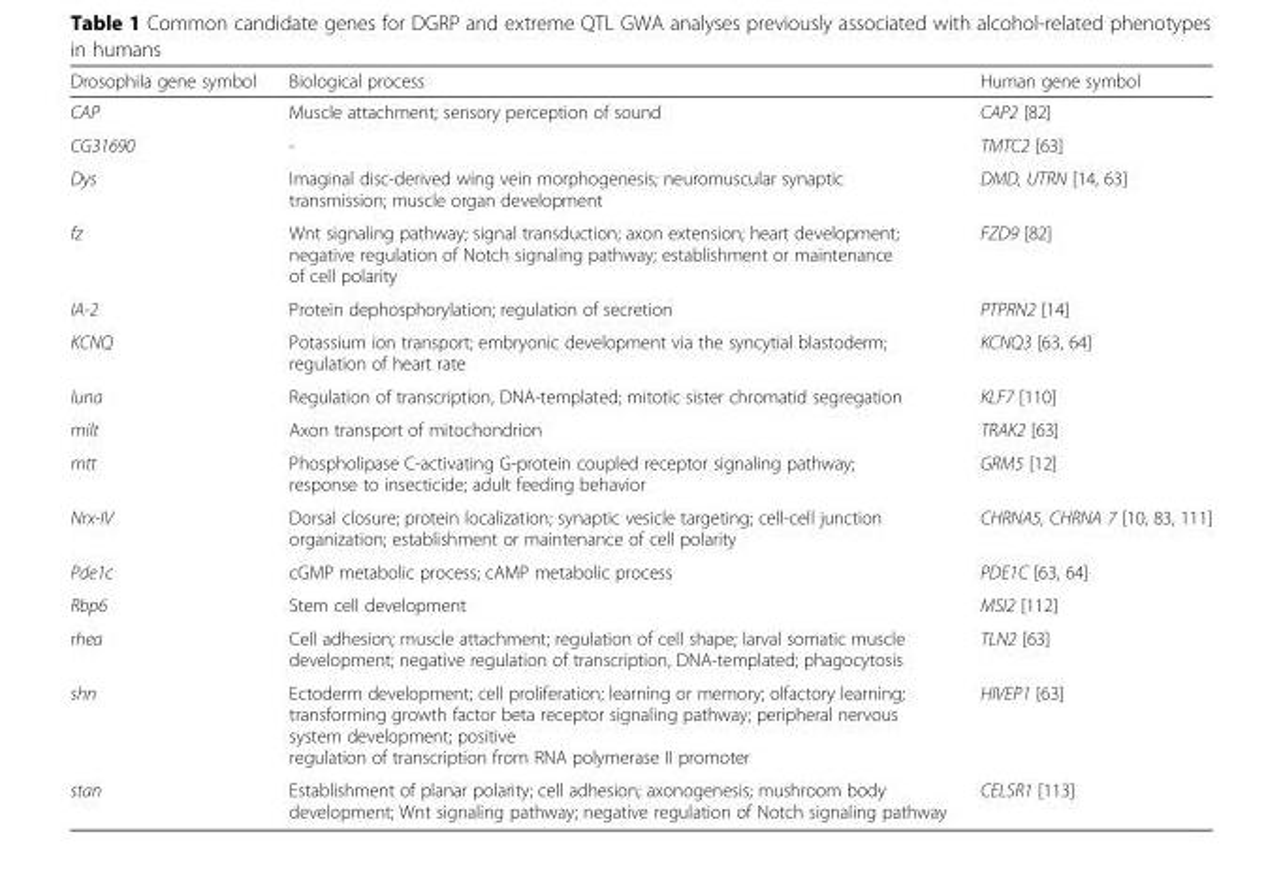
<table><thead><tr><td>Drosophila gene symbol</td><td>Biological process</td><td>Human gene symbol</td></tr></thead><tbody><tr><td>CAP</td><td>Muscle attachment; sensory perception of sound</td><td>CAP2 [82]</td></tr><tr><td>CG31690</td><td>-</td><td>TMTC2 [63]</td></tr><tr><td>Dys</td><td>Imaginal disc-derived wing vein morphogenesis; neuromuscular synaptic transmission; muscle organ development</td><td>DMD, UTRN [14, 63]</td></tr><tr><td>fz</td><td>Wnt signaling pathway; signal transduction; axon extension; heart development; negative regulation of Notch signaling pathway; establishment or maintenance of cell polarity</td><td>FZD9 [82]</td></tr><tr><td>IA-2</td><td>Protein dephosphorylation; regulation of secretion</td><td>PTPRN2 [14]</td></tr><tr><td>KCNQ</td><td>Potassium ion transport; embryonic development via the syncytial blastoderm; regulation of heart rate</td><td>KCNQ3 [63, 64]</td></tr><tr><td>luna</td><td>Regulation of transcription, DNA-templated; mitotic sister chromatid segregation</td><td>KLF7 [110]</td></tr><tr><td>milt</td><td>Axon transport of mitochondrion</td><td>TRAK2 [63]</td></tr><tr><td>mtt</td><td>Phospholipase C-activating G-protein coupled receptor signaling pathway; response to insecticide; adult feeding behavior</td><td>GRM5 [12]</td></tr><tr><td>Nrx-IV</td><td>Dorsal closure; protein localization; synaptic vesicle targeting; cell-cell junction organization; establishment or maintenance of cell polarity</td><td>CHRNA5, CHRNA 7 [10, 83, 111]</td></tr><tr><td>Pde1c</td><td>cGMP metabolic process; cAMP metabolic process</td><td>PDE1C [63, 64]</td></tr><tr><td>Rbp6</td><td>Stem cell development</td><td>MSI2 [112]</td></tr><tr><td>rhea</td><td>Cell adhesion; muscle attachment; regulation of cell shape; larval somatic muscle development; negative regulation of transcription, DNA-templated; phagocytosis</td><td>TLN2 [63]</td></tr><tr><td>shn</td><td>Ectoderm development; cell proliferation; learning or memory; olfactory learning; transforming growth factor beta receptor signaling pathway; peripheral nervous system development; positive regulation of transcription from RNA polymerase II promoter</td><td>HIVEP1 [63]</td></tr><tr><td>stan</td><td>Establishment of planar polarity; cell adhesion; axonogenesis; mushroom body development; Wnt signaling pathway; negative regulation of Notch signaling pathway</td><td>CELSR1 [113]</td></tr></tbody></table>